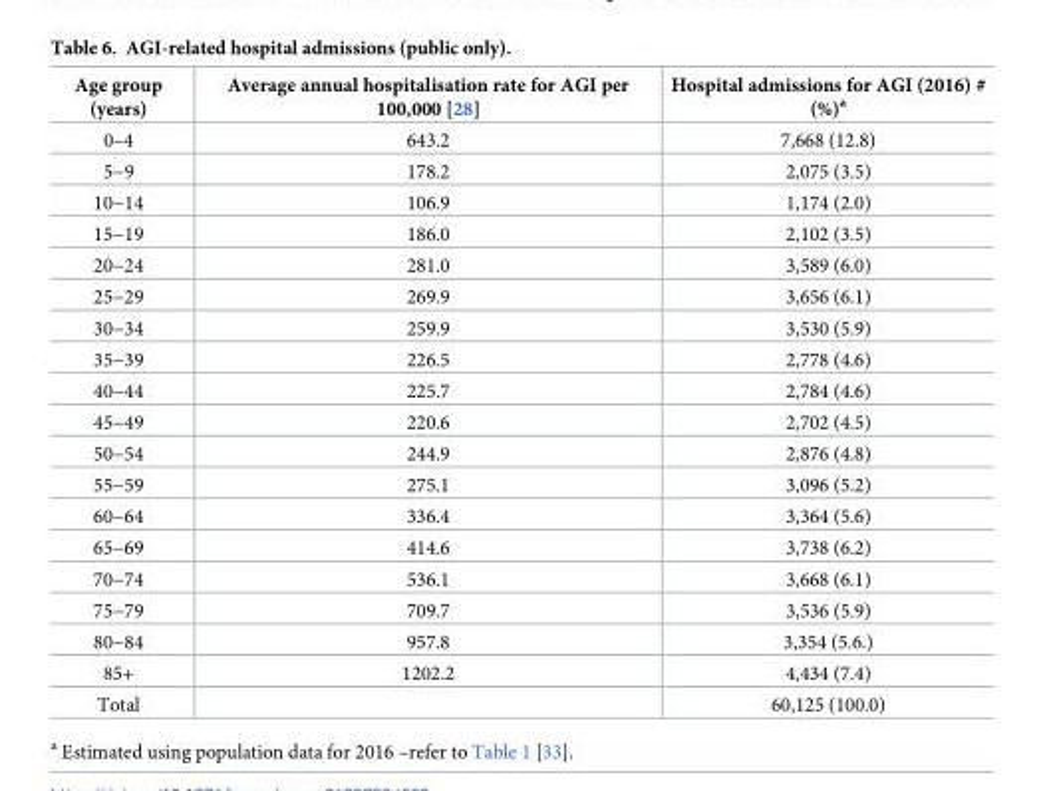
<table><thead><tr><td>Age group (years)</td><td>Average annual hospitalisation rate for AGI per 100,000 [28]</td><td>Hospital admissions for AGI (2016) # (%)<sup>a</sup></td></tr></thead><tbody><tr><td>0–4</td><td>643.2</td><td>7,668 (12.8)</td></tr><tr><td>5−9</td><td>178.2</td><td>2,075 (3.5)</td></tr><tr><td>10−14</td><td>106.9</td><td>1,174 (2.0)</td></tr><tr><td>15−19</td><td>186.0</td><td>2,102 (3.5)</td></tr><tr><td>20−24</td><td>281.0</td><td>3,589 (6.0)</td></tr><tr><td>25−29</td><td>269.9</td><td>3,656 (6.1)</td></tr><tr><td>30−34</td><td>259.9</td><td>3,530 (5.9)</td></tr><tr><td>35−39</td><td>226.5</td><td>2,778 (4.6)</td></tr><tr><td>40−44</td><td>225.7</td><td>2,784 (4.6)</td></tr><tr><td>45−49</td><td>220.6</td><td>2,702 (4.5)</td></tr><tr><td>50−54</td><td>244.9</td><td>2,876 (4.8)</td></tr><tr><td>55−59</td><td>275.1</td><td>3,096 (5.2)</td></tr><tr><td>60−64</td><td>336.4</td><td>3,364 (5.6)</td></tr><tr><td>65−69</td><td>414.6</td><td>3,738 (6.2)</td></tr><tr><td>70−74</td><td>536.1</td><td>3,668 (6.1)</td></tr><tr><td>75−79</td><td>709.7</td><td>3,536 (5.9)</td></tr><tr><td>80−84</td><td>957.8</td><td>3,354 (5.6.)</td></tr><tr><td>85+</td><td>1202.2</td><td>4,434 (7.4)</td></tr><tr><td>Total</td><td></td><td>60,125 (100.0)</td></tr></tbody></table>